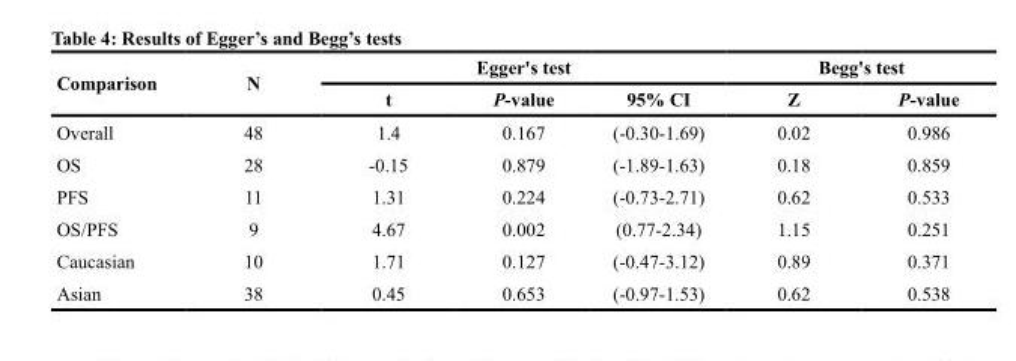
<table><thead><tr><td rowspan="2">Comparison</td><td rowspan="2">N</td><td colspan="3">Egger&#x27;s test</td><td colspan="2">Begg&#x27;s test</td></tr><tr><td>t</td><td>P-value</td><td>95% CI</td><td>Z</td><td>P-value</td></tr></thead><tbody><tr><td>Overall</td><td>48</td><td>1.4</td><td>0.167</td><td>(-0.30-1.69)</td><td>0.02</td><td>0.986</td></tr><tr><td>OS</td><td>28</td><td>-0.15</td><td>0.879</td><td>(-1.89-1.63)</td><td>0.18</td><td>0.859</td></tr><tr><td>PFS</td><td>11</td><td>1.31</td><td>0.224</td><td>(-0.73-2.71)</td><td>0.62</td><td>0.533</td></tr><tr><td>OS/PFS</td><td>9</td><td>4.67</td><td>0.002</td><td>(0.77-2.34)</td><td>1.15</td><td>0.251</td></tr><tr><td>Caucasian</td><td>10</td><td>1.71</td><td>0.127</td><td>(-0.47-3.12)</td><td>0.89</td><td>0.371</td></tr><tr><td>Asian</td><td>38</td><td>0.45</td><td>0.653</td><td>(-0.97-1.53)</td><td>0.62</td><td>0.538</td></tr></tbody></table>